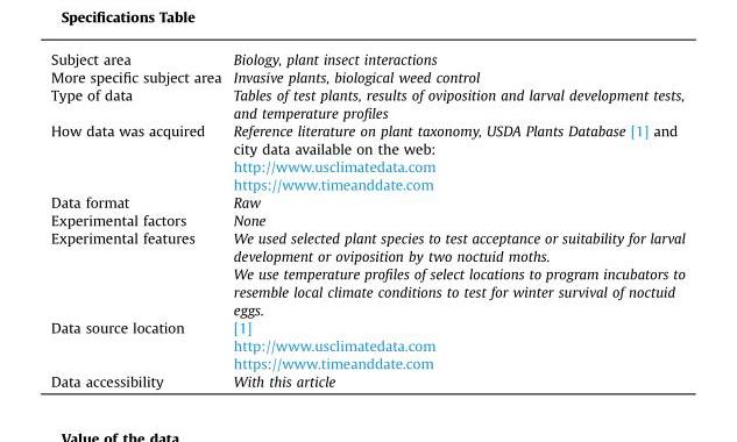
<table><tbody><tr><td>Subject area</td><td>Biology, plant insect interactions</td></tr><tr><td>More specific subject area</td><td>Invasive plants, biological weed control</td></tr><tr><td>Type of data</td><td>Tables of test plants, results of oviposition and larval development tests, and temperature profiles</td></tr><tr><td rowspan="3">How data was acquired</td><td>Reference literature on plant taxonomy, USDA Plants Database [1] and city data available on the web:</td></tr><tr><td>http://www.usclimatedata.com</td></tr><tr><td>https://www.timeanddate.com</td></tr><tr><td>Data format</td><td>Raw</td></tr><tr><td>Experimental factors</td><td>None</td></tr><tr><td rowspan="2">Experimental features</td><td>We used selected plant species to test acceptance or suitability for larval development or oviposition by two noctuid moths.</td></tr><tr><td>We use temperature profiles of select locations to program incubators to resemble local climate conditions to test for winter survival of noctuid eggs.</td></tr><tr><td rowspan="3">Data source location</td><td>[1]</td></tr><tr><td>http://www.usclimatedata.com</td></tr><tr><td>https://www.timeanddate.com</td></tr><tr><td>Data accessibility</td><td>With this article</td></tr></tbody></table>